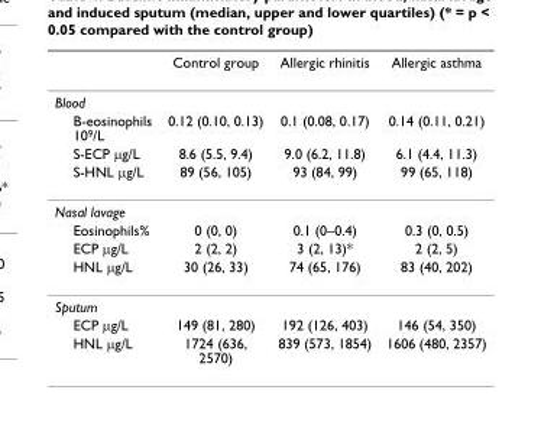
<table><thead><tr><td></td><td>Control group</td><td>Allergic rhinitis</td><td>Allergic asthma</td></tr></thead><tbody><tr><td colspan="4">Blood</td></tr><tr><td>B-eosinophils 10<sup>9</sup>/L</td><td>0.12 (0.10, 0.13)</td><td>0.1 (0.08, 0.17)</td><td>0.14 (0.11, 0.21)</td></tr><tr><td>S-ECP μg/L</td><td>8.6 (5.5, 9.4)</td><td>9.0 (6.2, 11.8)</td><td>6.1 (4.4, 11.3)</td></tr><tr><td>S-HNL μg/L</td><td>89 (56, 105)</td><td>93 (84, 99)</td><td>99 (65, 118)</td></tr><tr><td colspan="4">Nasal lavage</td></tr><tr><td>Eosinophils%</td><td>0 (0, 0)</td><td>0.1 (0–0.4)</td><td>0.3 (0, 0.5)</td></tr><tr><td>ECP μg/L</td><td>2 (2, 2)</td><td>3 (2, 13)*</td><td>2 (2, 5)</td></tr><tr><td>HNL μg/L</td><td>30 (26, 33)</td><td>74 (65, 176)</td><td>83 (40, 202)</td></tr><tr><td colspan="4">Sputum</td></tr><tr><td>ECP μg/L</td><td>149 (81, 280)</td><td>192 (126, 403)</td><td>146 (54, 350)</td></tr><tr><td>HNL μg/L</td><td>1724 (636, 2570)</td><td>839 (573, 1854)</td><td>1606 (480, 2357)</td></tr></tbody></table>